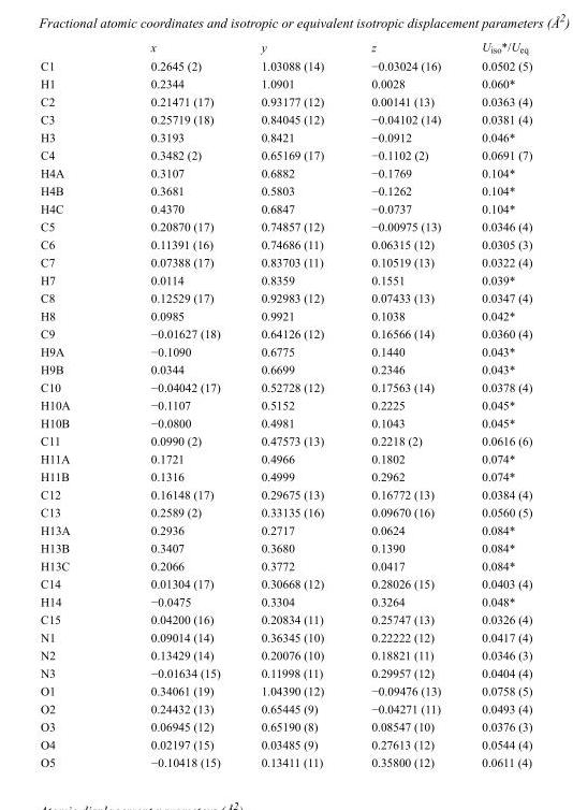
<table><thead><tr><td></td><td>x</td><td>y</td><td>z</td><td>U<sub>iso</sub>*/U<sub>eq</sub></td></tr></thead><tbody><tr><td>C1</td><td>0.2645 (2)</td><td>1.03088 (14)</td><td>−0.03024 (16)</td><td>0.0502 (5)</td></tr><tr><td>H1</td><td>0.2344</td><td>1.0901</td><td>0.0028</td><td>0.060*</td></tr><tr><td>C2</td><td>0.21471 (17)</td><td>0.93177 (12)</td><td>0.00141 (13)</td><td>0.0363 (4)</td></tr><tr><td>C3</td><td>0.25719 (18)</td><td>0.84045 (12)</td><td>−0.04102 (14)</td><td>0.0381 (4)</td></tr><tr><td>H3</td><td>0.3193</td><td>0.8421</td><td>−0.0912</td><td>0.046*</td></tr><tr><td>C4</td><td>0.3482 (2)</td><td>0.65169 (17)</td><td>−0.1102 (2)</td><td>0.0691 (7)</td></tr><tr><td>H4A</td><td>0.3107</td><td>0.6882</td><td>−0.1769</td><td>0.104*</td></tr><tr><td>H4B</td><td>0.3681</td><td>0.5803</td><td>−0.1262</td><td>0.104*</td></tr><tr><td>H4C</td><td>0.4370</td><td>0.6847</td><td>−0.0737</td><td>0.104*</td></tr><tr><td>C5</td><td>0.20870 (17)</td><td>0.74857 (12)</td><td>−0.00975 (13)</td><td>0.0346 (4)</td></tr><tr><td>C6</td><td>0.11391 (16)</td><td>0.74686 (11)</td><td>0.06315 (12)</td><td>0.0305 (3)</td></tr><tr><td>C7</td><td>0.07388 (17)</td><td>0.83703 (11)</td><td>0.10519 (13)</td><td>0.0322 (4)</td></tr><tr><td>H7</td><td>0.0114</td><td>0.8359</td><td>0.1551</td><td>0.039*</td></tr><tr><td>C8</td><td>0.12529 (17)</td><td>0.92983 (12)</td><td>0.07433 (13)</td><td>0.0347 (4)</td></tr><tr><td>H8</td><td>0.0985</td><td>0.9921</td><td>0.1038</td><td>0.042*</td></tr><tr><td>C9</td><td>−0.01627 (18)</td><td>0.64126 (12)</td><td>0.16566 (14)</td><td>0.0360 (4)</td></tr><tr><td>H9A</td><td>−0.1090</td><td>0.6775</td><td>0.1440</td><td>0.043*</td></tr><tr><td>H9B</td><td>0.0344</td><td>0.6699</td><td>0.2346</td><td>0.043*</td></tr><tr><td>C10</td><td>−0.04042 (17)</td><td>0.52728 (12)</td><td>0.17563 (14)</td><td>0.0378 (4)</td></tr><tr><td>H10A</td><td>−0.1107</td><td>0.5152</td><td>0.2225</td><td>0.045*</td></tr><tr><td>H10B</td><td>−0.0800</td><td>0.4981</td><td>0.1043</td><td>0.045*</td></tr><tr><td>C11</td><td>0.0990 (2)</td><td>0.47573 (13)</td><td>0.2218 (2)</td><td>0.0616 (6)</td></tr><tr><td>H11A</td><td>0.1721</td><td>0.4966</td><td>0.1802</td><td>0.074*</td></tr><tr><td>H11B</td><td>0.1316</td><td>0.4999</td><td>0.2962</td><td>0.074*</td></tr><tr><td>C12</td><td>0.16148 (17)</td><td>0.29675 (13)</td><td>0.16772 (13)</td><td>0.0384 (4)</td></tr><tr><td>C13</td><td>0.2589 (2)</td><td>0.33135 (16)</td><td>0.09670 (16)</td><td>0.0560 (5)</td></tr><tr><td>H13A</td><td>0.2936</td><td>0.2717</td><td>0.0624</td><td>0.084*</td></tr><tr><td>H13B</td><td>0.3407</td><td>0.3680</td><td>0.1390</td><td>0.084*</td></tr><tr><td>H13C</td><td>0.2066</td><td>0.3772</td><td>0.0417</td><td>0.084*</td></tr><tr><td>C14</td><td>0.01304 (17)</td><td>0.30668 (12)</td><td>0.28026 (15)</td><td>0.0403 (4)</td></tr><tr><td>H14</td><td>−0.0475</td><td>0.3304</td><td>0.3264</td><td>0.048*</td></tr><tr><td>C15</td><td>0.04200 (16)</td><td>0.20834 (11)</td><td>0.25747 (13)</td><td>0.0326 (4)</td></tr><tr><td>N1</td><td>0.09014 (14)</td><td>0.36345 (10)</td><td>0.22222 (12)</td><td>0.0417 (4)</td></tr><tr><td>N2</td><td>0.13429 (14)</td><td>0.20076 (10)</td><td>0.18821 (11)</td><td>0.0346 (3)</td></tr><tr><td>N3</td><td>−0.01634 (15)</td><td>0.11998 (11)</td><td>0.29957 (12)</td><td>0.0404 (4)</td></tr><tr><td>O1</td><td>0.34061 (19)</td><td>1.04390 (12)</td><td>−0.09476 (13)</td><td>0.0758 (5)</td></tr><tr><td>O2</td><td>0.24432 (13)</td><td>0.65445 (9)</td><td>−0.04271 (11)</td><td>0.0493 (4)</td></tr><tr><td>O3</td><td>0.06945 (12)</td><td>0.65190 (8)</td><td>0.08547 (10)</td><td>0.0376 (3)</td></tr><tr><td>O4</td><td>0.02197 (15)</td><td>0.03485 (9)</td><td>0.27613 (12)</td><td>0.0544 (4)</td></tr><tr><td>O5</td><td>−0.10418 (15)</td><td>0.13411 (11)</td><td>0.35800 (12)</td><td>0.0611 (4)</td></tr></tbody></table>